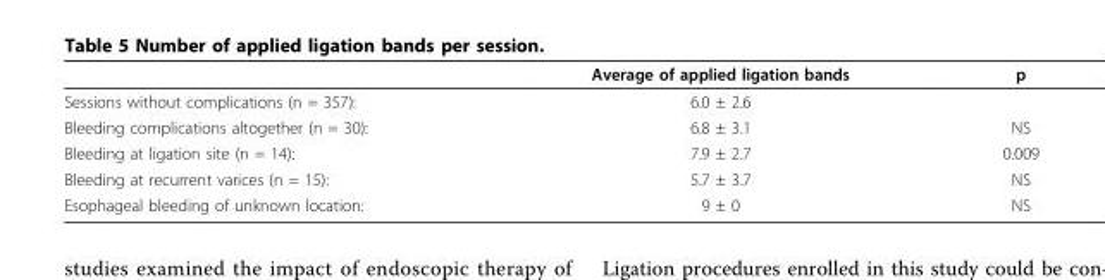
<table><thead><tr><td></td><td>Average of applied ligation bands</td><td>p</td></tr></thead><tbody><tr><td>Sessions without complications (n = 357):</td><td>6.0 ± 2.6</td><td></td></tr><tr><td>Bleeding complications altogether (n = 30):</td><td>6.8 ± 3.1</td><td>NS</td></tr><tr><td>Bleeding at ligation site (n = 14):</td><td>7.9 ± 2.7</td><td>0.009</td></tr><tr><td>Bleeding at recurrent varices (n = 15):</td><td>5.7 ± 3.7</td><td>NS</td></tr><tr><td>Esophageal bleeding of unknown location:</td><td>9 ± 0</td><td>NS</td></tr></tbody></table>